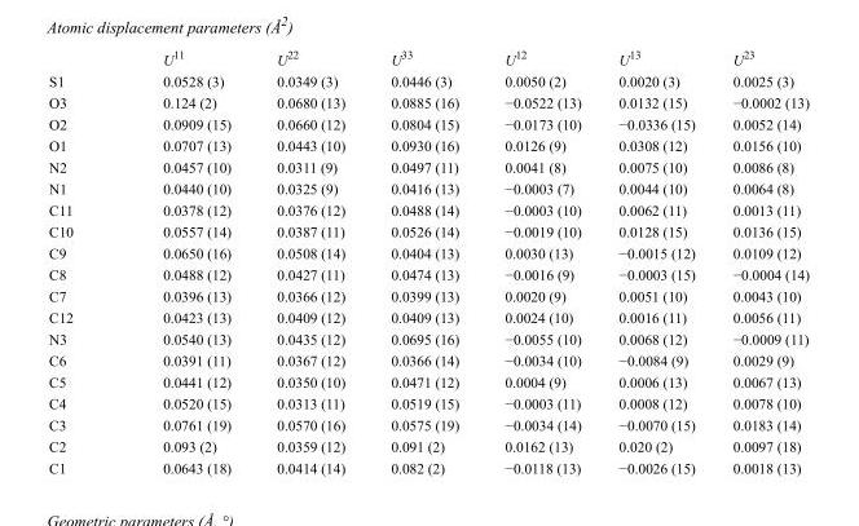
<table><thead><tr><td></td><td>U<sup>11</sup></td><td>U<sup>22</sup></td><td>U<sup>33</sup></td><td>U<sup>12</sup></td><td>U<sup>13</sup></td><td>U<sup>23</sup></td></tr></thead><tbody><tr><td>S1</td><td>0.0528 (3)</td><td>0.0349 (3)</td><td>0.0446 (3)</td><td>0.0050 (2)</td><td>0.0020 (3)</td><td>0.0025 (3)</td></tr><tr><td>O3</td><td>0.124 (2)</td><td>0.0680 (13)</td><td>0.0885 (16)</td><td>−0.0522 (13)</td><td>0.0132 (15)</td><td>−0.0002 (13)</td></tr><tr><td>O2</td><td>0.0909 (15)</td><td>0.0660 (12)</td><td>0.0804 (15)</td><td>−0.0173 (10)</td><td>−0.0336 (15)</td><td>0.0052 (14)</td></tr><tr><td>O1</td><td>0.0707 (13)</td><td>0.0443 (10)</td><td>0.0930 (16)</td><td>0.0126 (9)</td><td>0.0308 (12)</td><td>0.0156 (10)</td></tr><tr><td>N2</td><td>0.0457 (10)</td><td>0.0311 (9)</td><td>0.0497 (11)</td><td>0.0041 (8)</td><td>0.0075 (10)</td><td>0.0086 (8)</td></tr><tr><td>N1</td><td>0.0440 (10)</td><td>0.0325 (9)</td><td>0.0416 (13)</td><td>−0.0003 (7)</td><td>0.0044 (10)</td><td>0.0064 (8)</td></tr><tr><td>C11</td><td>0.0378 (12)</td><td>0.0376 (12)</td><td>0.0488 (14)</td><td>−0.0003 (10)</td><td>0.0062 (11)</td><td>0.0013 (11)</td></tr><tr><td>C10</td><td>0.0557 (14)</td><td>0.0387 (11)</td><td>0.0526 (14)</td><td>−0.0019 (10)</td><td>0.0128 (15)</td><td>0.0136 (15)</td></tr><tr><td>C9</td><td>0.0650 (16)</td><td>0.0508 (14)</td><td>0.0404 (13)</td><td>0.0030 (13)</td><td>−0.0015 (12)</td><td>0.0109 (12)</td></tr><tr><td>C8</td><td>0.0488 (12)</td><td>0.0427 (11)</td><td>0.0474 (13)</td><td>−0.0016 (9)</td><td>−0.0003 (15)</td><td>−0.0004 (14)</td></tr><tr><td>C7</td><td>0.0396 (13)</td><td>0.0366 (12)</td><td>0.0399 (13)</td><td>0.0020 (9)</td><td>0.0051 (10)</td><td>0.0043 (10)</td></tr><tr><td>C12</td><td>0.0423 (13)</td><td>0.0409 (12)</td><td>0.0409 (13)</td><td>0.0024 (10)</td><td>0.0016 (11)</td><td>0.0056 (11)</td></tr><tr><td>N3</td><td>0.0540 (13)</td><td>0.0435 (12)</td><td>0.0695 (16)</td><td>−0.0055 (10)</td><td>0.0068 (12)</td><td>−0.0009 (11)</td></tr><tr><td>C6</td><td>0.0391 (11)</td><td>0.0367 (12)</td><td>0.0366 (14)</td><td>−0.0034 (10)</td><td>−0.0084 (9)</td><td>0.0029 (9)</td></tr><tr><td>C5</td><td>0.0441 (12)</td><td>0.0350 (10)</td><td>0.0471 (12)</td><td>0.0004 (9)</td><td>0.0006 (13)</td><td>0.0067 (13)</td></tr><tr><td>C4</td><td>0.0520 (15)</td><td>0.0313 (11)</td><td>0.0519 (15)</td><td>−0.0003 (11)</td><td>0.0008 (12)</td><td>0.0078 (10)</td></tr><tr><td>C3</td><td>0.0761 (19)</td><td>0.0570 (16)</td><td>0.0575 (19)</td><td>−0.0034 (14)</td><td>−0.0070 (15)</td><td>0.0183 (14)</td></tr><tr><td>C2</td><td>0.093 (2)</td><td>0.0359 (12)</td><td>0.091 (2)</td><td>0.0162 (13)</td><td>0.020 (2)</td><td>0.0097 (18)</td></tr><tr><td>C1</td><td>0.0643 (18)</td><td>0.0414 (14)</td><td>0.082 (2)</td><td>−0.0118 (13)</td><td>−0.0026 (15)</td><td>0.0018 (13)</td></tr></tbody></table>